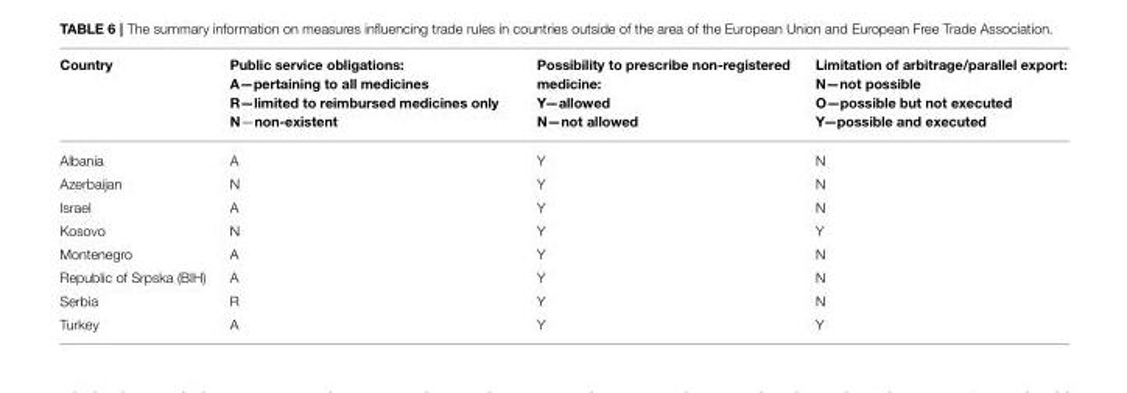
<table><thead><tr><td>Country</td><td>Public service obligations: A—pertaining to all medicines R—limited to reimbursed medicines only N—non-existent</td><td>Possibility to prescribe non-registered medicine: Y—allowed N—not allowed</td><td>Limitation of arbitrage/parallel export: N—not possible O—possible but not executed Y—possible and executed</td></tr></thead><tbody><tr><td>Albania</td><td>A</td><td>Y</td><td>N</td></tr><tr><td>Azerbaijan</td><td>N</td><td>Y</td><td>N</td></tr><tr><td>Israel</td><td>A</td><td>Y</td><td>N</td></tr><tr><td>Kosovo</td><td>N</td><td>Y</td><td>Y</td></tr><tr><td>Montenegro</td><td>A</td><td>Y</td><td>N</td></tr><tr><td>Republic of Srpska (BIH)</td><td>A</td><td>Y</td><td>N</td></tr><tr><td>Serbia</td><td>R</td><td>Y</td><td>N</td></tr><tr><td>Turkey</td><td>A</td><td>Y</td><td>Y</td></tr></tbody></table>